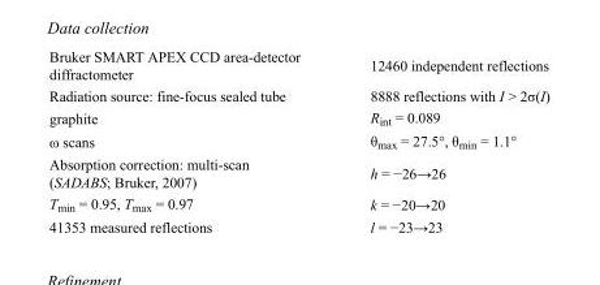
<table><tbody><tr><td>Bruker SMART APEX CCD area-detector diffractometer</td><td>12460 independent reflections</td></tr><tr><td>Radiation source: fine-focus sealed tube</td><td>8888 reflections with I &gt; 2σ(I)</td></tr><tr><td>graphite</td><td>R<sub>int</sub> = 0.089</td></tr><tr><td>ω scans</td><td>θ<sub>max</sub> = 27.5°, θ<sub>min</sub> = 1.1°</td></tr><tr><td>Absorption correction: multi-scan (SADABS; Bruker, 2007)</td><td>h = −26→26</td></tr><tr><td>T<sub>min</sub> = 0.95, T<sub>max</sub> = 0.97</td><td>k = −20→20</td></tr><tr><td>41353 measured reflections</td><td>l = −23→23</td></tr></tbody></table>